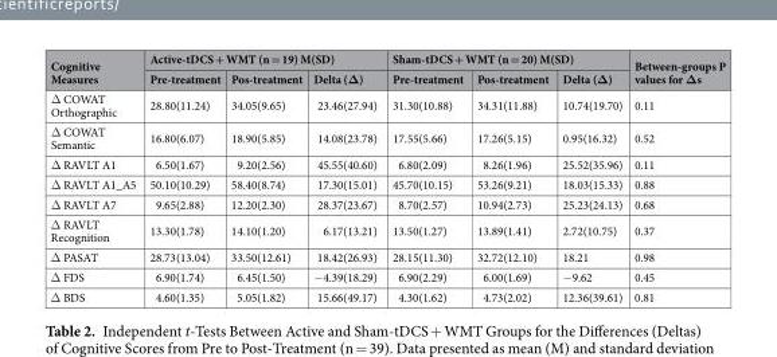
<table><thead><tr><td rowspan="2">Cognitive Measures</td><td colspan="3">Active-tDCS + WMT (n = 19) M(SD)</td><td colspan="3">Sham-tDCS + WMT (n = 20) M(SD)</td><td rowspan="2">Between-groups P values for Δs</td></tr><tr><td>Pre-treatment</td><td>Pos-treatment</td><td>Delta (Δ)</td><td>Pre-treatment</td><td>Pos-treatment</td><td>Delta (Δ)</td></tr></thead><tbody><tr><td>Δ COWAT Orthographic</td><td>28.80(11.24)</td><td>34.05(9.65)</td><td>23.46(27.94)</td><td>31.30(10.88)</td><td>34.31(11.88)</td><td>10.74(19.70)</td><td>0.11</td></tr><tr><td>Δ COWAT Semantic</td><td>16.80(6.07)</td><td>18.90(5.85)</td><td>14.08(23.78)</td><td>17.55(5.66)</td><td>17.26(5.15)</td><td>0.95(16.32)</td><td>0.52</td></tr><tr><td>Δ RAVLT A1</td><td>6.50(1.67)</td><td>9.20(2.56)</td><td>45.55(40.60)</td><td>6.80(2.09)</td><td>8.26(1.96)</td><td>25.52(35.96)</td><td>0.11</td></tr><tr><td>Δ RAVLT A1_A5</td><td>50.10(10.29)</td><td>58.40(8.74)</td><td>17.30(15.01)</td><td>45.70(10.15)</td><td>53.26(9.21)</td><td>18.03(15.33)</td><td>0.88</td></tr><tr><td>Δ RAVLT A7</td><td>9.65(2.88)</td><td>12.20(2.30)</td><td>28.37(23.67)</td><td>8.70(2.57)</td><td>10.94(2.73)</td><td>25.23(24.13)</td><td>0.68</td></tr><tr><td>Δ RAVLT Recognition</td><td>13.30(1.78)</td><td>14.10(1.20)</td><td>6.17(13.21)</td><td>13.50(1.27)</td><td>13.89(1.41)</td><td>2.72(10.75)</td><td>0.37</td></tr><tr><td>Δ PASAT</td><td>28.73(13.04)</td><td>33.50(12.61)</td><td>18.42(26.93)</td><td>28.15(11.30)</td><td>32.72(12.10)</td><td>18.21</td><td>0.98</td></tr><tr><td>Δ FDS</td><td>6.90(1.74)</td><td>6.45(1.50)</td><td>−4.39(18.29)</td><td>6.90(2.29)</td><td>6.00(1.69)</td><td>−9.62</td><td>0.45</td></tr><tr><td>Δ BDS</td><td>4.60(1.35)</td><td>5.05(1.82)</td><td>15.66(49.17)</td><td>4.30(1.62)</td><td>4.73(2.02)</td><td>12.36(39.61)</td><td>0.81</td></tr></tbody></table>